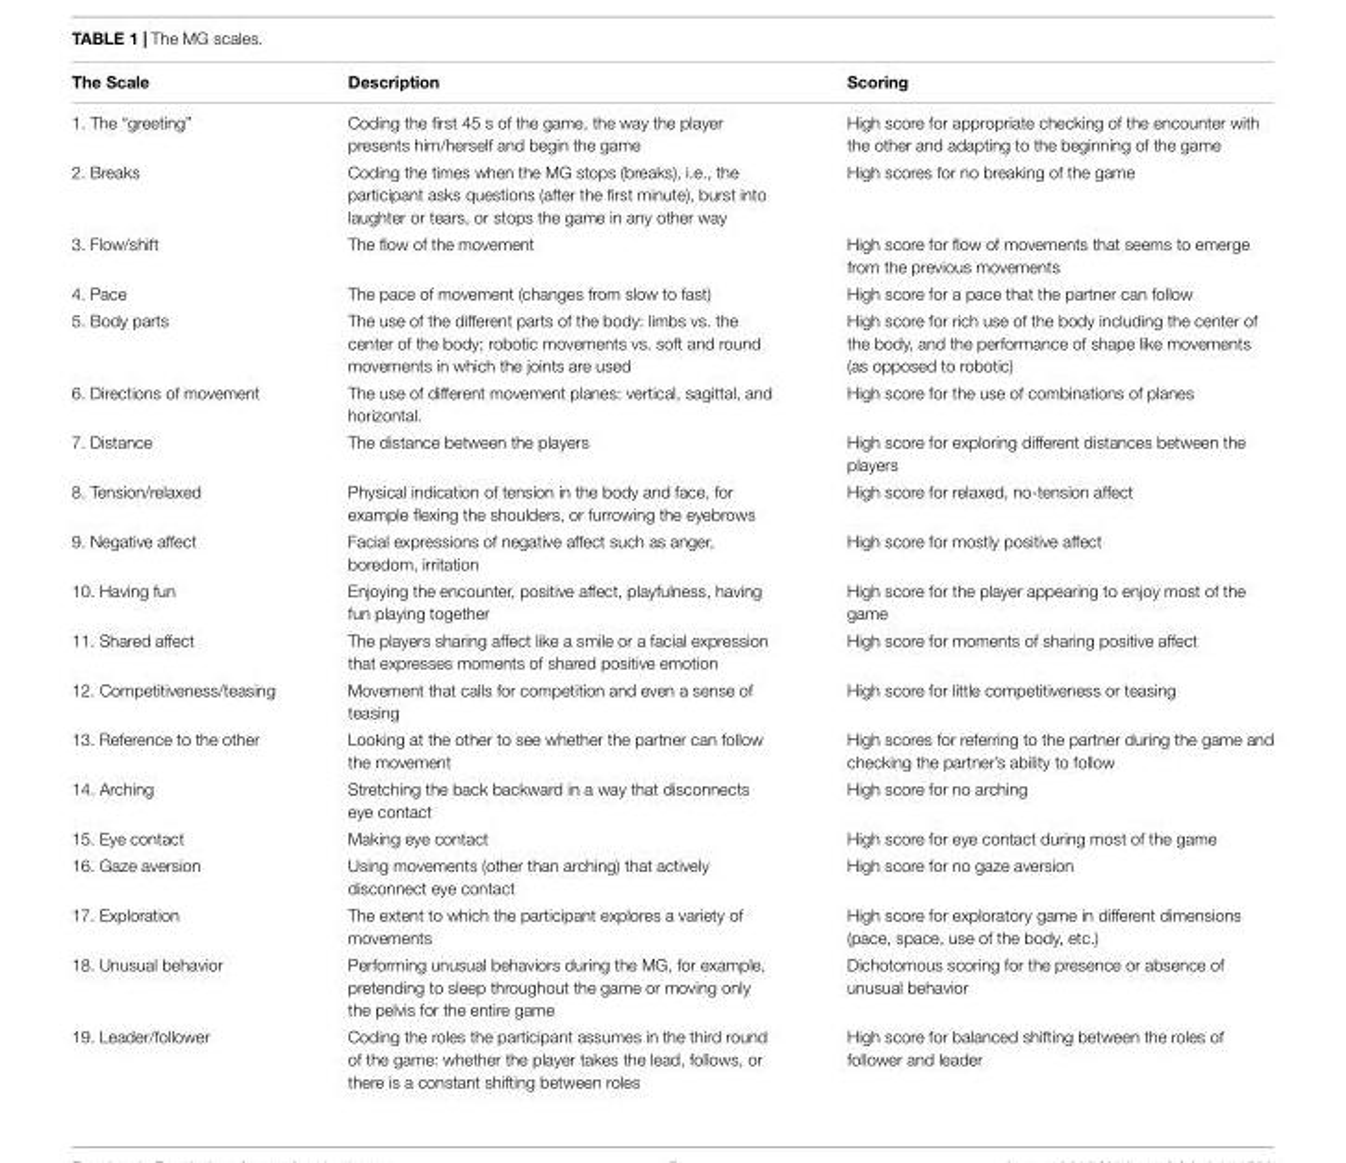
<table><thead><tr><td>The Scale</td><td>Description</td><td>Scoring</td></tr></thead><tbody><tr><td>1. The “greeting”</td><td>Coding the first 45 s of the game, the way the player presents him/herself and begin the game</td><td>High score for appropriate checking of the encounter with the other and adapting to the beginning of the game</td></tr><tr><td>2. Breaks</td><td>Coding the times when the MG stops (breaks), i.e., the participant asks questions (after the first minute), burst into laughter or tears, or stops the game in any other way</td><td>High scores for no breaking of the game</td></tr><tr><td>3. Flow/shift</td><td>The flow of the movement</td><td>High score for flow of movements that seems to emerge from the previous movements</td></tr><tr><td>4. Pace</td><td>The pace of movement (changes from slow to fast)</td><td>High score for a pace that the partner can follow</td></tr><tr><td>5. Body parts</td><td>The use of the different parts of the body: limbs vs. the center of the body; robotic movements vs. soft and round movements in which the joints are used</td><td>High score for rich use of the body including the center of the body, and the performance of shape like movements (as opposed to robotic)</td></tr><tr><td>6. Directions of movement</td><td>The use of different movement planes: vertical, sagittal, and horizontal.</td><td>High score for the use of combinations of planes</td></tr><tr><td>7. Distance</td><td>The distance between the players</td><td>High score for exploring different distances between the players</td></tr><tr><td>8. Tension/relaxed</td><td>Physical indication of tension in the body and face, for example flexing the shoulders, or furrowing the eyebrows</td><td>High score for relaxed, no-tension affect</td></tr><tr><td>9. Negative affect</td><td>Facial expressions of negative affect such as anger, boredom, irritation</td><td>High score for mostly positive affect</td></tr><tr><td>10. Having fun</td><td>Enjoying the encounter, positive affect, playfulness, having fun playing together</td><td>High score for the player appearing to enjoy most of the game</td></tr><tr><td>11. Shared affect</td><td>The players sharing affect like a smile or a facial expression that expresses moments of shared positive emotion</td><td>High score for moments of sharing positive affect</td></tr><tr><td>12. Competitiveness/teasing</td><td>Movement that calls for competition and even a sense of teasing</td><td>High score for little competitiveness or teasing</td></tr><tr><td>13. Reference to the other</td><td>Looking at the other to see whether the partner can follow the movement</td><td>High scores for referring to the partner during the game and checking the partner’s ability to follow</td></tr><tr><td>14. Arching</td><td>Stretching the back backward in a way that disconnects eye contact</td><td>High score for no arching</td></tr><tr><td>15. Eye contact</td><td>Making eye contact</td><td>High score for eye contact during most of the game</td></tr><tr><td>16. Gaze aversion</td><td>Using movements (other than arching) that actively disconnect eye contact</td><td>High score for no gaze aversion</td></tr><tr><td>17. Exploration</td><td>The extent to which the participant explores a variety of movements</td><td>High score for exploratory game in different dimensions (pace, space, use of the body, etc.)</td></tr><tr><td>18. Unusual behavior</td><td>Performing unusual behaviors during the MG, for example, pretending to sleep throughout the game or moving only the pelvis for the entire game</td><td>Dichotomous scoring for the presence or absence of unusual behavior</td></tr><tr><td>19. Leader/follower</td><td>Coding the roles the participant assumes in the third round of the game: whether the player takes the lead, follows, or there is a constant shifting between roles</td><td>High score for balanced shifting between the roles of follower and leader</td></tr></tbody></table>